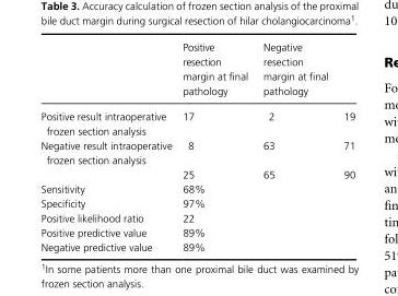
<table><thead><tr><td></td><td>Positive resection margin at final pathology</td><td>Negative resection margin at final pathology</td><td></td></tr></thead><tbody><tr><td>Positive result intraoperative frozen section analysis</td><td>17</td><td>2</td><td>19</td></tr><tr><td rowspan="2">Negative result intraoperative frozen section analysis</td><td>8</td><td>63</td><td>71</td></tr><tr><td>25</td><td>65</td><td>90</td></tr><tr><td>Sensitivity</td><td>68%</td><td></td><td></td></tr><tr><td>Specificity</td><td>97%</td><td></td><td></td></tr><tr><td>Positive likelihood ratio</td><td>22</td><td></td><td></td></tr><tr><td>Positive predictive value</td><td>89%</td><td></td><td></td></tr><tr><td>Negative predictive value</td><td>89%</td><td></td><td></td></tr></tbody></table>